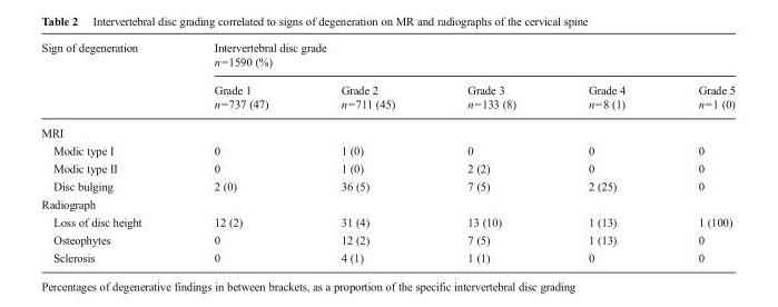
<table><thead><tr><td rowspan="3">Sign of degeneration</td><td colspan="5">Intervertebral disc grade n=1590 (%)</td></tr><tr><td rowspan="2">Grade 1 n=737 (47)</td><td rowspan="2">Grade 2 n=711 (45)</td><td rowspan="2">Grade 3 n=133 (8)</td><td rowspan="2">Grade 4 n=8 (1)</td><td rowspan="2">Grade 5 n=1 (0)</td></tr><tr></tr></thead><tbody><tr><td colspan="6">MRI</td></tr><tr><td>Modic type I</td><td>0</td><td>1 (0)</td><td>0</td><td>0</td><td>0</td></tr><tr><td>Modic type II</td><td>0</td><td>1 (0)</td><td>2 (2)</td><td>0</td><td>0</td></tr><tr><td>Disc bulging</td><td>2 (0)</td><td>36 (5)</td><td>7 (5)</td><td>2 (25)</td><td>0</td></tr><tr><td colspan="6">Radiograph</td></tr><tr><td>Loss of disc height</td><td>12 (2)</td><td>31 (4)</td><td>13 (10)</td><td>1 (13)</td><td>1 (100)</td></tr><tr><td>Osteophytes</td><td>0</td><td>12 (2)</td><td>7 (5)</td><td>1 (13)</td><td>0</td></tr><tr><td>Sclerosis</td><td>0</td><td>4 (1)</td><td>1 (1)</td><td>0</td><td>0</td></tr></tbody></table>